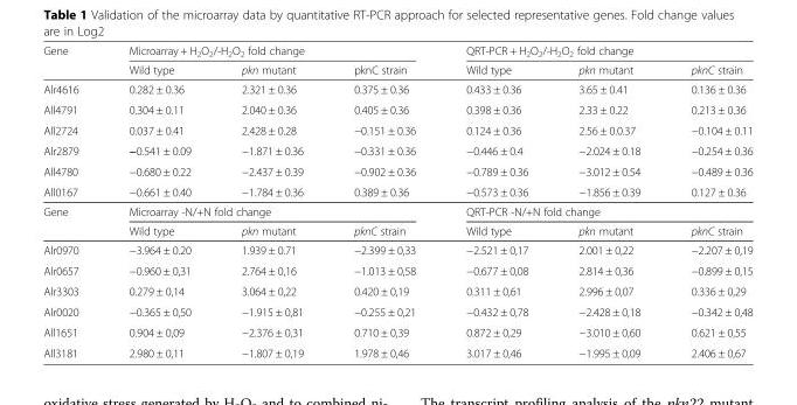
<table><thead><tr><td rowspan="2">Gene</td><td colspan="3">Microarray + H<sub>2</sub>O<sub>2</sub>/-H<sub>2</sub>O<sub>2</sub> fold change</td><td colspan="3">QRT-PCR + H<sub>2</sub>O<sub>2</sub>/-H<sub>2</sub>O<sub>2</sub> fold change</td></tr><tr><td>Wild type</td><td>pkn mutant</td><td>pknC strain</td><td>Wild type</td><td>pkn mutant</td><td>pknC strain</td></tr></thead><tbody><tr><td>Alr4616</td><td>0.282 ± 0.36</td><td>2.321 ± 0.36</td><td>0.375 ± 0.36</td><td>0.433 ± 0.36</td><td>3.65 ± 0.41</td><td>0.136 ± 0.36</td></tr><tr><td>All4791</td><td>0.304 ± 0.11</td><td>2.040 ± 0.36</td><td>0.405 ± 0.36</td><td>0.398 ± 0.36</td><td>2.33 ± 0.22</td><td>0.213 ± 0.36</td></tr><tr><td>All2724</td><td>0.037 ± 0.41</td><td>2.428 ± 0.28</td><td>−0.151 ± 0.36</td><td>0.124 ± 0.36</td><td>2.56 ± 0.0.37</td><td>−0.104 ± 0.11</td></tr><tr><td>Alr2879</td><td>−0.541 ± 0.09</td><td>−1.871 ± 0.36</td><td>−0.331 ± 0.36</td><td>−0.446 ± 0.4</td><td>−2.024 ± 0.18</td><td>−0.254 ± 0.36</td></tr><tr><td>All4780</td><td>−0.680 ± 0.22</td><td>−2.437 ± 0.39</td><td>−0.902 ± 0.36</td><td>−0.789 ± 0.36</td><td>−3.012 ± 0.54</td><td>−0.489 ± 0.36</td></tr><tr><td>All0167</td><td>−0.661 ± 0.40</td><td>−1.784 ± 0.36</td><td>0.389 ± 0.36</td><td>−0.573 ± 0.36</td><td>−1.856 ± 0.39</td><td>0.127 ± 0.36</td></tr><tr><td rowspan="2">Gene</td><td colspan="3">Microarray -N/+N fold change</td><td colspan="3">QRT-PCR -N/+N fold change</td></tr><tr><td>Wild type</td><td>pkn mutant</td><td>pknC strain</td><td>Wild type</td><td>pkn mutant</td><td>pknC strain</td></tr><tr><td>Alr0970</td><td>−3.964 ± 0.20</td><td>1.939 ± 0.71</td><td>−2.399 ± 0,33</td><td>−2.521 ± 0,17</td><td>2.001 ± 0,22</td><td>−2.207 ± 0,19</td></tr><tr><td>Alr0657</td><td>−0.960 ± 0,31</td><td>2.764 ± 0,16</td><td>−1.013 ± 0,58</td><td>−0.677 ± 0,08</td><td>2.814 ± 0,36</td><td>−0.899 ± 0,15</td></tr><tr><td>Alr3303</td><td>0.279 ± 0,14</td><td>3.064 ± 0,22</td><td>0.420 ± 0,19</td><td>0.311 ± 0,61</td><td>2.996 ± 0,07</td><td>0.336 ± 0,29</td></tr><tr><td>Alr0020</td><td>−0.365 ± 0,50</td><td>−1.915 ± 0,81</td><td>−0.255 ± 0,21</td><td>−0.432 ± 0,78</td><td>−2.428 ± 0,18</td><td>−0.342 ± 0,48</td></tr><tr><td>All1651</td><td>0.904 ± 0,09</td><td>−2.376 ± 0,31</td><td>0.710 ± 0,39</td><td>0.872 ± 0,29</td><td>−3.010 ± 0,60</td><td>0.621 ± 0,55</td></tr><tr><td>All3181</td><td>2.980 ± 0,11</td><td>−1.807 ± 0,19</td><td>1.978 ± 0,46</td><td>3.017 ± 0,46</td><td>−1.995 ± 0,09</td><td>2.406 ± 0,67</td></tr></tbody></table>